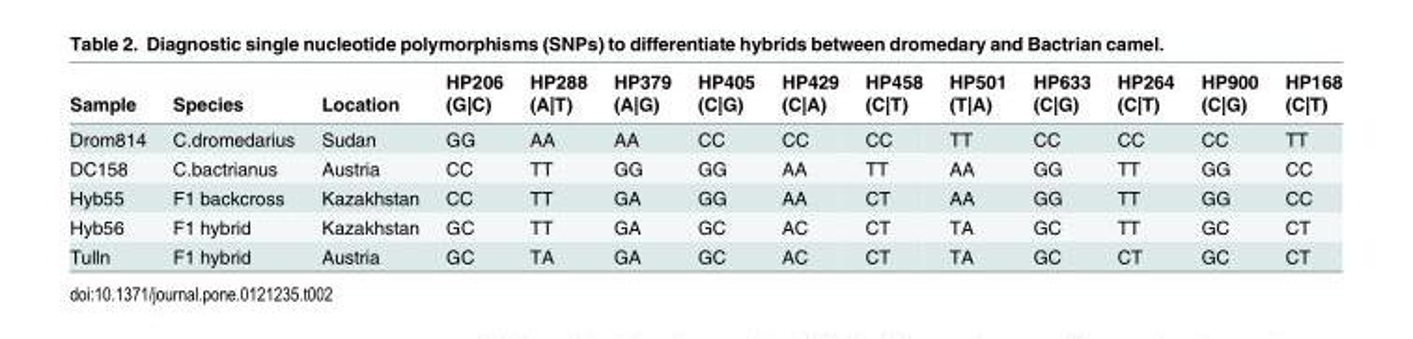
<table><thead><tr><td rowspan="2">Sample</td><td rowspan="2">Species</td><td rowspan="2">Location</td><td rowspan="2">HP206 (G|C)</td><td rowspan="2">HP288 (A|T)</td><td rowspan="2">HP379 (A|G)</td><td rowspan="2">HP405 (C|G)</td><td rowspan="2">HP429 (C|A)</td><td rowspan="2">HP458 (C|T)</td><td rowspan="2">HP501 (T|A)</td><td rowspan="2">HP633 (C|G)</td><td rowspan="2">HP264 (C|T)</td><td rowspan="2">HP900 (C|G)</td><td rowspan="2">HP168 (C|T)</td></tr><tr></tr></thead><tbody><tr><td>Drom814</td><td>C.dromedarius</td><td>Sudan</td><td>GG</td><td>AA</td><td>AA</td><td>CC</td><td>CC</td><td>CC</td><td>TT</td><td>CC</td><td>CC</td><td>CC</td><td>TT</td></tr><tr><td>DC158</td><td>C.bactrianus</td><td>Austria</td><td>CC</td><td>TT</td><td>GG</td><td>GG</td><td>AA</td><td>TT</td><td>AA</td><td>GG</td><td>TT</td><td>GG</td><td>CC</td></tr><tr><td>Hyb55</td><td>F1 backcross</td><td>Kazakhstan</td><td>CC</td><td>TT</td><td>GA</td><td>GG</td><td>AA</td><td>CT</td><td>AA</td><td>GG</td><td>TT</td><td>GG</td><td>CC</td></tr><tr><td>Hyb56</td><td>F1 hybrid</td><td>Kazakhstan</td><td>GC</td><td>TT</td><td>GA</td><td>GC</td><td>AC</td><td>CT</td><td>TA</td><td>GC</td><td>TT</td><td>GC</td><td>CT</td></tr><tr><td>Tulln</td><td>F1 hybrid</td><td>Austria</td><td>GC</td><td>TA</td><td>GA</td><td>GC</td><td>AC</td><td>CT</td><td>TA</td><td>GC</td><td>CT</td><td>GC</td><td>CT</td></tr></tbody></table>